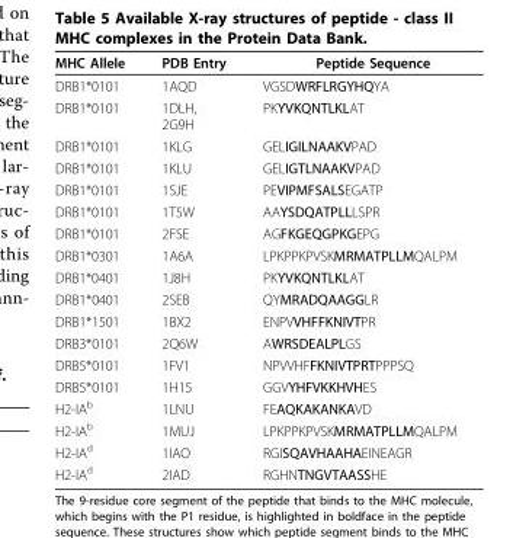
<table><thead><tr><td>MHC Allele</td><td>PDB Entry</td><td>Peptide Sequence</td></tr></thead><tbody><tr><td>DRB1*0101</td><td>1AQD</td><td>VGSDWRFLRGYHQYA</td></tr><tr><td>DRB1*0101</td><td>1DLH, 2G9H</td><td>PKYVKQNTLKLAT</td></tr><tr><td>DRB1*0101</td><td>1KLG</td><td>GELIGILNAAKVPAD</td></tr><tr><td>DRB1*0101</td><td>1KLU</td><td>GELIGTLNAAKVPAD</td></tr><tr><td>DRB1*0101</td><td>1SJE</td><td>PEVIPMFSALSEGATP</td></tr><tr><td>DRB1*0101</td><td>1T5W</td><td>AAYSDQATPLLLSPR</td></tr><tr><td>DRB1*0101</td><td>2FSE</td><td>AGFKGEQGPKGEPG</td></tr><tr><td>DRB1*0301</td><td>1A6A</td><td>LPKPPKPVSKMRMATPLLMQALPM</td></tr><tr><td>DRB1*0401</td><td>1J8H</td><td>PKYVKQNTLKLAT</td></tr><tr><td>DRB1*0401</td><td>2SEB</td><td>QYMRADQAAGGLR</td></tr><tr><td>DRB1*1501</td><td>1BX2</td><td>ENPVVHFFKNIVTPR</td></tr><tr><td>DRB3*0101</td><td>2Q6W</td><td>AWRSDEALPLGS</td></tr><tr><td>DRB5*0101</td><td>1FV1</td><td>NPVVHFFKNIVTPRTPPPSQ</td></tr><tr><td>DRB5*0101</td><td>1H15</td><td>GGVYHFVKKHVHES</td></tr><tr><td>H2-IA<sup>b</sup></td><td>1LNU</td><td>FEAQKAKANKAVD</td></tr><tr><td>H2-IA<sup>b</sup></td><td>1MUJ</td><td>LPKPPKPVSKMRMATPLLMQALPM</td></tr><tr><td>H2-IA<sup>d</sup></td><td>1IAO</td><td>RGISQAVHAAHAEINEAGR</td></tr><tr><td>H2-IA<sup>d</sup></td><td>2IAD</td><td>RGHNTNGVTAASSHE</td></tr></tbody></table>